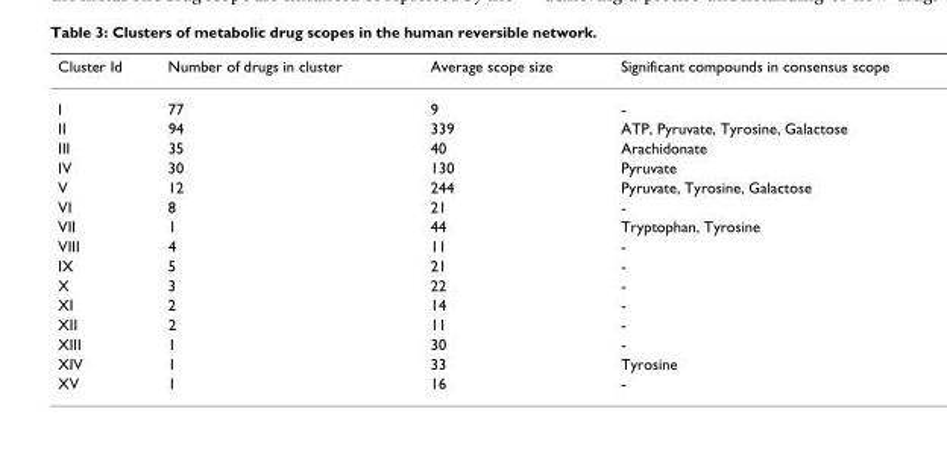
<table><thead><tr><td>Cluster Id</td><td>Number of drugs in cluster</td><td>Average scope size</td><td>Significant compounds in consensus scope</td></tr></thead><tbody><tr><td>I</td><td>77</td><td>9</td><td>-</td></tr><tr><td>II</td><td>94</td><td>339</td><td>ATP, Pyruvate, Tyrosine, Galactose</td></tr><tr><td>III</td><td>35</td><td>40</td><td>Arachidonate</td></tr><tr><td>IV</td><td>30</td><td>130</td><td>Pyruvate</td></tr><tr><td>V</td><td>12</td><td>244</td><td>Pyruvate, Tyrosine, Galactose</td></tr><tr><td>VI</td><td>8</td><td>21</td><td>-</td></tr><tr><td>VII</td><td>1</td><td>44</td><td>Tryptophan, Tyrosine</td></tr><tr><td>VIII</td><td>4</td><td>11</td><td>-</td></tr><tr><td>IX</td><td>5</td><td>21</td><td>-</td></tr><tr><td>X</td><td>3</td><td>22</td><td>-</td></tr><tr><td>XI</td><td>2</td><td>14</td><td>-</td></tr><tr><td>XII</td><td>2</td><td>11</td><td>-</td></tr><tr><td>XIII</td><td>1</td><td>30</td><td>-</td></tr><tr><td>XIV</td><td>1</td><td>33</td><td>Tyrosine</td></tr><tr><td>XV</td><td>1</td><td>16</td><td>-</td></tr></tbody></table>